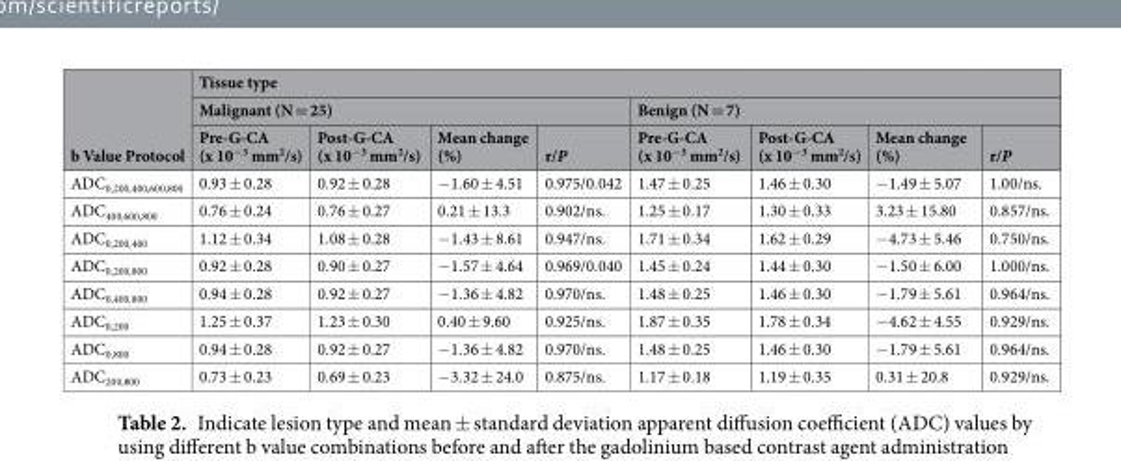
<table><thead><tr><td rowspan="3">b Value Protocol</td><td colspan="8">Tissue type</td></tr><tr><td colspan="4">Malignant (N = 25)</td><td colspan="4">Benign (N = 7)</td></tr><tr><td>Pre-G-CA (x 10<sup>−3</sup> mm<sup>2</sup>/s)</td><td>Post-G-CA (x 10<sup>−3</sup> mm<sup>2</sup>/s)</td><td>Mean change (%)</td><td>r/P</td><td>Pre-G-CA (x 10<sup>−3</sup> mm<sup>2</sup>/s)</td><td>Post-G-CA (x 10<sup>−3</sup> mm<sup>2</sup>/s)</td><td>Mean change (%)</td><td>r/P</td></tr></thead><tbody><tr><td>ADC<sub>0,200,400,600,800</sub></td><td>0.93 ± 0.28</td><td>0.92 ± 0.28</td><td>−1.60 ± 4.51</td><td>0.975/0.042</td><td>1.47 ± 0.25</td><td>1.46 ± 0.30</td><td>−1.49 ± 5.07</td><td>1.00/ns.</td></tr><tr><td>ADC<sub>400,600,800</sub></td><td>0.76 ± 0.24</td><td>0.76 ± 0.27</td><td>0.21 ± 13.3</td><td>0.902/ns.</td><td>1.25 ± 0.17</td><td>1.30 ± 0.33</td><td>3.23 ± 15.80</td><td>0.857/ns.</td></tr><tr><td>ADC<sub>0,200,400</sub></td><td>1.12 ± 0.34</td><td>1.08 ± 0.28</td><td>−1.43 ± 8.61</td><td>0.947/ns.</td><td>1.71 ± 0.34</td><td>1.62 ± 0.29</td><td>−4.73 ± 5.46</td><td>0.750/ns.</td></tr><tr><td>ADC<sub>0,200,800</sub></td><td>0.92 ± 0.28</td><td>0.90 ± 0.27</td><td>−1.57 ± 4.64</td><td>0.969/0.040</td><td>1.45 ± 0.24</td><td>1.44 ± 0.30</td><td>−1.50 ± 6.00</td><td>1.000/ns.</td></tr><tr><td>ADC<sub>0,400,800</sub></td><td>0.94 ± 0.28</td><td>0.92 ± 0.27</td><td>−1.36 ± 4.82</td><td>0.970/ns.</td><td>1.48 ± 0.25</td><td>1.46 ± 0.30</td><td>−1.79 ± 5.61</td><td>0.964/ns.</td></tr><tr><td>ADC<sub>0,200</sub></td><td>1.25 ± 0.37</td><td>1.23 ± 0.30</td><td>0.40 ± 9.60</td><td>0.925/ns.</td><td>1.87 ± 0.35</td><td>1.78 ± 0.34</td><td>−4.62 ± 4.55</td><td>0.929/ns.</td></tr><tr><td>ADC<sub>0,800</sub></td><td>0.94 ± 0.28</td><td>0.92 ± 0.27</td><td>−1.36 ± 4.82</td><td>0.970/ns.</td><td>1.48 ± 0.25</td><td>1.46 ± 0.30</td><td>−1.79 ± 5.61</td><td>0.964/ns.</td></tr><tr><td>ADC<sub>200,800</sub></td><td>0.73 ± 0.23</td><td>0.69 ± 0.23</td><td>−3.32 ± 24.0</td><td>0.875/ns.</td><td>1.17 ± 0.18</td><td>1.19 ± 0.35</td><td>0.31 ± 20.8</td><td>0.929/ns.</td></tr></tbody></table>